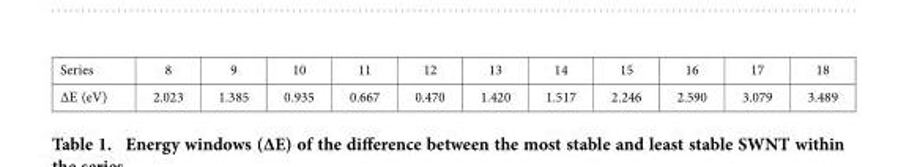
<table><tbody><tr><td>Series</td><td>8</td><td>9</td><td>10</td><td>11</td><td>12</td><td>13</td><td>14</td><td>15</td><td>16</td><td>17</td><td>18</td></tr><tr><td>∆E (eV)</td><td>2.023</td><td>1.385</td><td>0.935</td><td>0.667</td><td>0.470</td><td>1.420</td><td>1.517</td><td>2.246</td><td>2.590</td><td>3.079</td><td>3.489</td></tr></tbody></table>